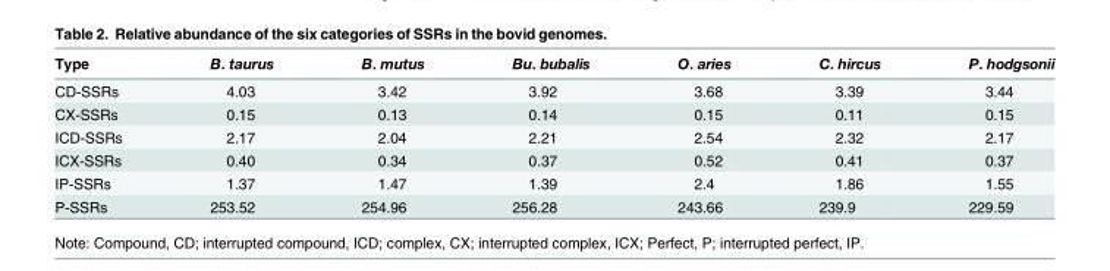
<table><thead><tr><td>Type</td><td>B. taurus</td><td>B. mutus</td><td>Bu. bubalis</td><td>O. aries</td><td>C. hircus</td><td>P. hodgsonii</td></tr></thead><tbody><tr><td>CD-SSRs</td><td>4.03</td><td>3.42</td><td>3.92</td><td>3.68</td><td>3.39</td><td>3.44</td></tr><tr><td>CX-SSRs</td><td>0.15</td><td>0.13</td><td>0.14</td><td>0.15</td><td>0.11</td><td>0.15</td></tr><tr><td>ICD-SSRs</td><td>2.17</td><td>2.04</td><td>2.21</td><td>2.54</td><td>2.32</td><td>2.17</td></tr><tr><td>ICX-SSRs</td><td>0.40</td><td>0.34</td><td>0.37</td><td>0.52</td><td>0.41</td><td>0.37</td></tr><tr><td>IP-SSRs</td><td>1.37</td><td>1.47</td><td>1.39</td><td>2.4</td><td>1.86</td><td>1.55</td></tr><tr><td>P-SSRs</td><td>253.52</td><td>254.96</td><td>256.28</td><td>243.66</td><td>239.9</td><td>229.59</td></tr></tbody></table>